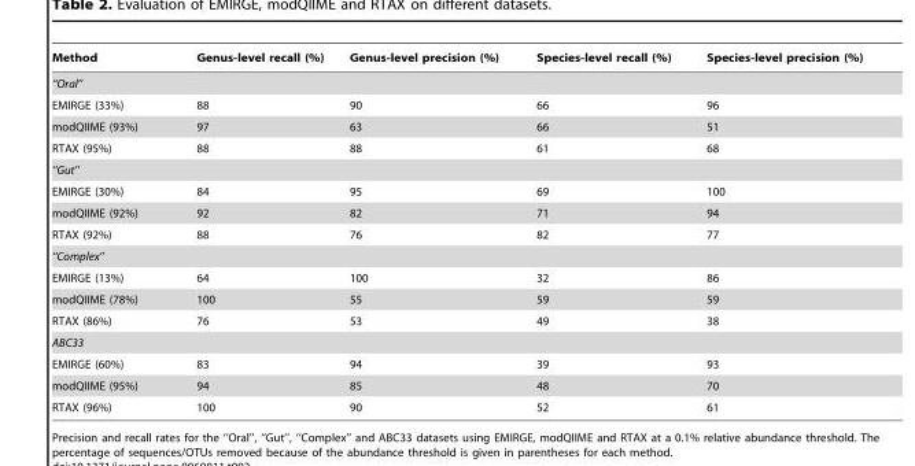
<table><thead><tr><td>Method</td><td>Genus-level recall (%)</td><td>Genus-level precision (%)</td><td>Species-level recall (%)</td><td>Species-level precision (%)</td></tr></thead><tbody><tr><td colspan="5">‘‘Oral’’</td></tr><tr><td>EMIRGE (33%)</td><td>88</td><td>90</td><td>66</td><td>96</td></tr><tr><td>modQIIME (93%)</td><td>97</td><td>63</td><td>66</td><td>51</td></tr><tr><td>RTAX (95%)</td><td>88</td><td>88</td><td>61</td><td>68</td></tr><tr><td colspan="5">‘‘Gut’’</td></tr><tr><td>EMIRGE (30%)</td><td>84</td><td>95</td><td>69</td><td>100</td></tr><tr><td>modQIIME (92%)</td><td>92</td><td>82</td><td>71</td><td>94</td></tr><tr><td>RTAX (92%)</td><td>88</td><td>76</td><td>82</td><td>77</td></tr><tr><td colspan="5">‘‘Complex’’</td></tr><tr><td>EMIRGE (13%)</td><td>64</td><td>100</td><td>32</td><td>86</td></tr><tr><td>modQIIME (78%)</td><td>100</td><td>55</td><td>59</td><td>59</td></tr><tr><td>RTAX (86%)</td><td>76</td><td>53</td><td>49</td><td>38</td></tr><tr><td colspan="5">ABC33</td></tr><tr><td>EMIRGE (60%)</td><td>83</td><td>94</td><td>39</td><td>93</td></tr><tr><td>modQIIME (95%)</td><td>94</td><td>85</td><td>48</td><td>70</td></tr><tr><td>RTAX (96%)</td><td>100</td><td>90</td><td>52</td><td>61</td></tr></tbody></table>